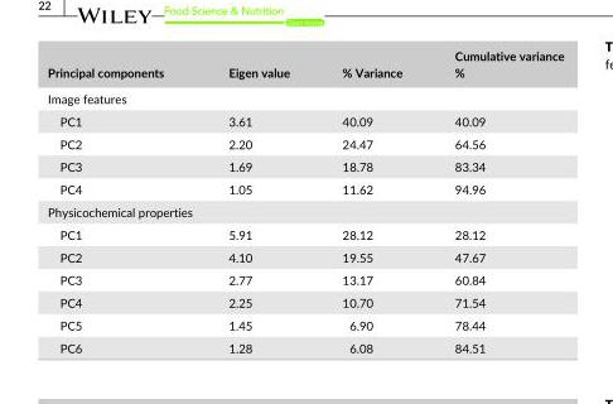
<table><thead><tr><td>Principal components</td><td>Eigen value</td><td>% Variance</td><td>Cumulative variance %</td></tr></thead><tbody><tr><td colspan="4">Image features</td></tr><tr><td>PC1</td><td>3.61</td><td>40.09</td><td>40.09</td></tr><tr><td>PC2</td><td>2.20</td><td>24.47</td><td>64.56</td></tr><tr><td>PC3</td><td>1.69</td><td>18.78</td><td>83.34</td></tr><tr><td>PC4</td><td>1.05</td><td>11.62</td><td>94.96</td></tr><tr><td colspan="4">Physicochemical properties</td></tr><tr><td>PC1</td><td>5.91</td><td>28.12</td><td>28.12</td></tr><tr><td>PC2</td><td>4.10</td><td>19.55</td><td>47.67</td></tr><tr><td>PC3</td><td>2.77</td><td>13.17</td><td>60.84</td></tr><tr><td>PC4</td><td>2.25</td><td>10.70</td><td>71.54</td></tr><tr><td>PC5</td><td>1.45</td><td>6.90</td><td>78.44</td></tr><tr><td>PC6</td><td>1.28</td><td>6.08</td><td>84.51</td></tr></tbody></table>